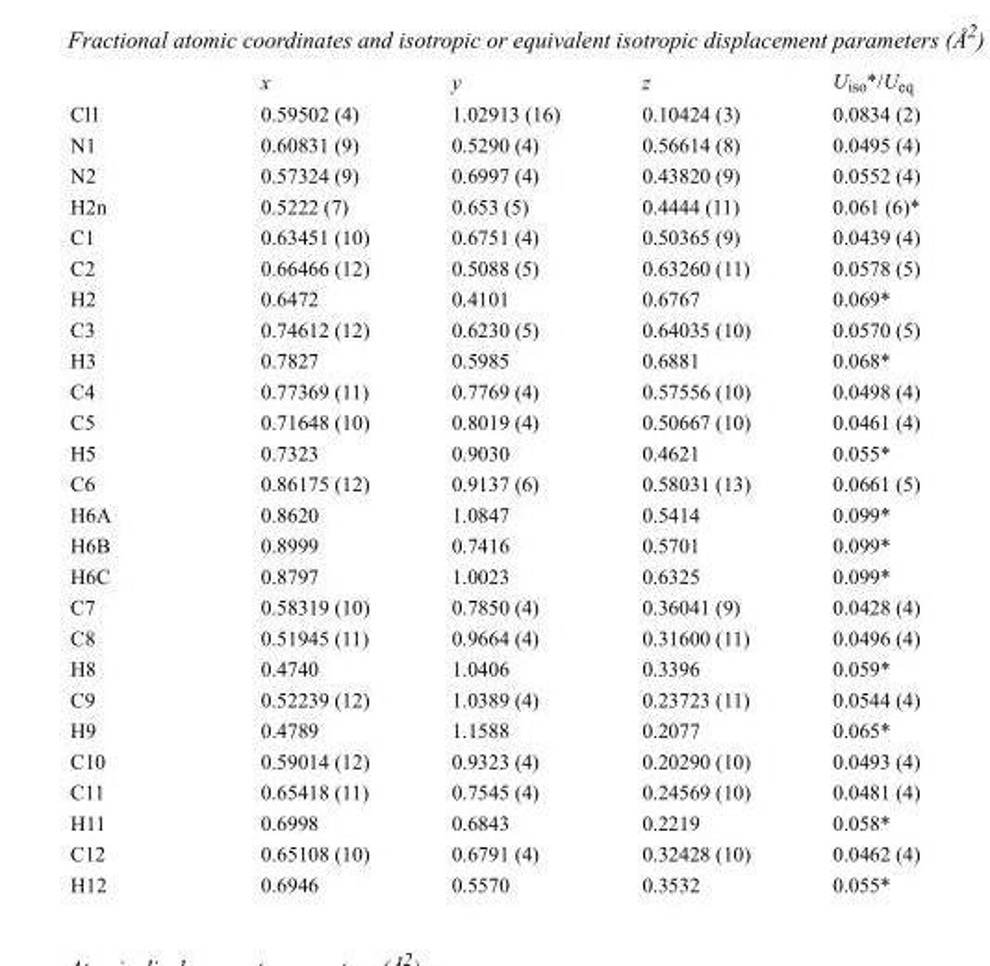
<table><thead><tr><td></td><td>x</td><td>y</td><td>z</td><td>U<sub>iso</sub>*/U<sub>eq</sub></td></tr></thead><tbody><tr><td>Cl1</td><td>0.59502 (4)</td><td>1.02913 (16)</td><td>0.10424 (3)</td><td>0.0834 (2)</td></tr><tr><td>N1</td><td>0.60831 (9)</td><td>0.5290 (4)</td><td>0.56614 (8)</td><td>0.0495 (4)</td></tr><tr><td>N2</td><td>0.57324 (9)</td><td>0.6997 (4)</td><td>0.43820 (9)</td><td>0.0552 (4)</td></tr><tr><td>H2n</td><td>0.5222 (7)</td><td>0.653 (5)</td><td>0.4444 (11)</td><td>0.061 (6)*</td></tr><tr><td>C1</td><td>0.63451 (10)</td><td>0.6751 (4)</td><td>0.50365 (9)</td><td>0.0439 (4)</td></tr><tr><td>C2</td><td>0.66466 (12)</td><td>0.5088 (5)</td><td>0.63260 (11)</td><td>0.0578 (5)</td></tr><tr><td>H2</td><td>0.6472</td><td>0.4101</td><td>0.6767</td><td>0.069*</td></tr><tr><td>C3</td><td>0.74612 (12)</td><td>0.6230 (5)</td><td>0.64035 (10)</td><td>0.0570 (5)</td></tr><tr><td>H3</td><td>0.7827</td><td>0.5985</td><td>0.6881</td><td>0.068*</td></tr><tr><td>C4</td><td>0.77369 (11)</td><td>0.7769 (4)</td><td>0.57556 (10)</td><td>0.0498 (4)</td></tr><tr><td>C5</td><td>0.71648 (10)</td><td>0.8019 (4)</td><td>0.50667 (10)</td><td>0.0461 (4)</td></tr><tr><td>H5</td><td>0.7323</td><td>0.9030</td><td>0.4621</td><td>0.055*</td></tr><tr><td>C6</td><td>0.86175 (12)</td><td>0.9137 (6)</td><td>0.58031 (13)</td><td>0.0661 (5)</td></tr><tr><td>H6A</td><td>0.8620</td><td>1.0847</td><td>0.5414</td><td>0.099*</td></tr><tr><td>H6B</td><td>0.8999</td><td>0.7416</td><td>0.5701</td><td>0.099*</td></tr><tr><td>H6C</td><td>0.8797</td><td>1.0023</td><td>0.6325</td><td>0.099*</td></tr><tr><td>C7</td><td>0.58319 (10)</td><td>0.7850 (4)</td><td>0.36041 (9)</td><td>0.0428 (4)</td></tr><tr><td>C8</td><td>0.51945 (11)</td><td>0.9664 (4)</td><td>0.31600 (11)</td><td>0.0496 (4)</td></tr><tr><td>H8</td><td>0.4740</td><td>1.0406</td><td>0.3396</td><td>0.059*</td></tr><tr><td>C9</td><td>0.52239 (12)</td><td>1.0389 (4)</td><td>0.23723 (11)</td><td>0.0544 (4)</td></tr><tr><td>H9</td><td>0.4789</td><td>1.1588</td><td>0.2077</td><td>0.065*</td></tr><tr><td>C10</td><td>0.59014 (12)</td><td>0.9323 (4)</td><td>0.20290 (10)</td><td>0.0493 (4)</td></tr><tr><td>C11</td><td>0.65418 (11)</td><td>0.7545 (4)</td><td>0.24569 (10)</td><td>0.0481 (4)</td></tr><tr><td>H11</td><td>0.6998</td><td>0.6843</td><td>0.2219</td><td>0.058*</td></tr><tr><td>C12</td><td>0.65108 (10)</td><td>0.6791 (4)</td><td>0.32428 (10)</td><td>0.0462 (4)</td></tr><tr><td>H12</td><td>0.6946</td><td>0.5570</td><td>0.3532</td><td>0.055*</td></tr></tbody></table>